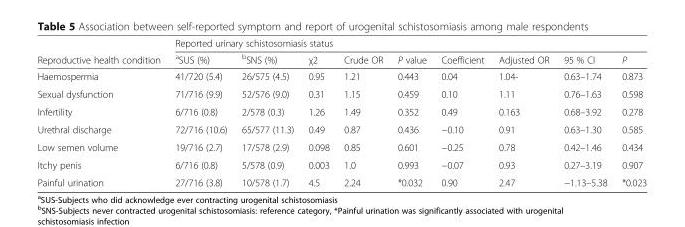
<table><thead><tr><td rowspan="2">Reproductive health condition</td><td colspan="9">Reported urinary schistosomiasis status</td></tr><tr><td><sup>a</sup>SUS (%)</td><td><sup>b</sup>SNS (%)</td><td>χ2</td><td>Crude OR</td><td>P value</td><td>Coefficient</td><td>Adjusted OR</td><td>95 % CI</td><td>P</td></tr></thead><tbody><tr><td>Haemospermia</td><td>41/720 (5.4)</td><td>26/575 (4.5)</td><td>0.95</td><td>1.21</td><td>0.443</td><td>0.04</td><td>1.04-</td><td>0.63–1.74</td><td>0.873</td></tr><tr><td>Sexual dysfunction</td><td>71/716 (9.9)</td><td>52/576 (9.0)</td><td>0.31</td><td>1.15</td><td>0.459</td><td>0.10</td><td>1.11</td><td>0.76–1.63</td><td>0.598</td></tr><tr><td>Infertility</td><td>6/716 (0.8)</td><td>2/578 (0.3)</td><td>1.26</td><td>1.49</td><td>0.352</td><td>0.49</td><td>0.163</td><td>0.68–3.92</td><td>0.278</td></tr><tr><td>Urethral discharge</td><td>72/716 (10.6)</td><td>65/577 (11.3)</td><td>0.49</td><td>0.87</td><td>0.436</td><td>−0.10</td><td>0.91</td><td>0.63–1.30</td><td>0.585</td></tr><tr><td>Low semen volume</td><td>19/716 (2.7)</td><td>17/578 (2.9)</td><td>0.098</td><td>0.85</td><td>0.601</td><td>−0.25</td><td>0.78</td><td>0.42–1.46</td><td>0.434</td></tr><tr><td>Itchy penis</td><td>6/716 (0.8)</td><td>5/578 (0.9)</td><td>0.003</td><td>1.0</td><td>0.993</td><td>−0.07</td><td>0.93</td><td>0.27–3.19</td><td>0.907</td></tr><tr><td>Painful urination</td><td>27/716 (3.8)</td><td>10/578 (1.7)</td><td>4.5</td><td>2.24</td><td>*0.032</td><td>0.90</td><td>2.47</td><td>−1.13–5.38</td><td>*0.023</td></tr></tbody></table>